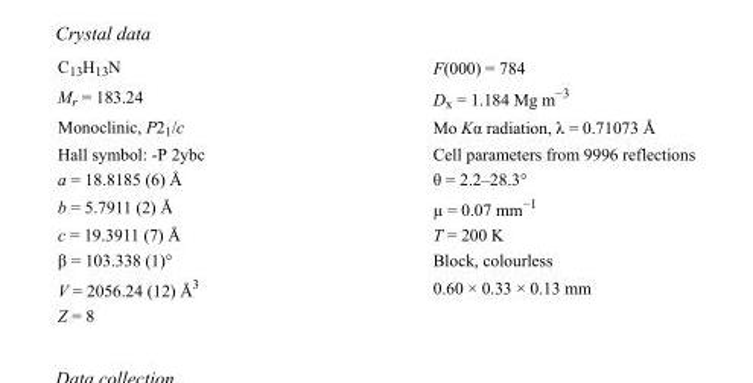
<table><tbody><tr><td>C<sub>13</sub>H<sub>13</sub>N</td><td>F(000) = 784</td></tr><tr><td>M<sub>r</sub> = 183.24</td><td>D<sub>x</sub> = 1.184 Mg m<sup>−3</sup></td></tr><tr><td>Monoclinic, P2<sub>1</sub>/c</td><td>Mo Kα radiation, λ = 0.71073 Å</td></tr><tr><td>Hall symbol: -P 2ybc</td><td>Cell parameters from 9996 reflections</td></tr><tr><td>a = 18.8185 (6) Å</td><td>θ = 2.2–28.3°</td></tr><tr><td>b = 5.7911 (2) Å</td><td>µ = 0.07 mm<sup>−1</sup></td></tr><tr><td>c = 19.3911 (7) Å</td><td>T = 200 K</td></tr><tr><td>β = 103.338 (1)°</td><td>Block, colourless</td></tr><tr><td>V = 2056.24 (12) Å<sup>3</sup></td><td>0.60 × 0.33 × 0.13 mm</td></tr><tr><td>Z = 8</td><td></td></tr></tbody></table>